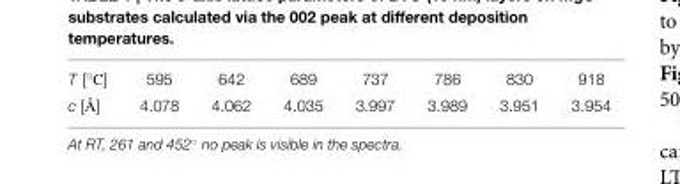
<table><tbody><tr><td>T [◦C]</td><td>595</td><td>642</td><td>689</td><td>737</td><td>786</td><td>830</td><td>918</td></tr><tr><td>c [Å]</td><td>4.078</td><td>4.062</td><td>4.035</td><td>3.997</td><td>3.989</td><td>3.951</td><td>3.954</td></tr></tbody></table>